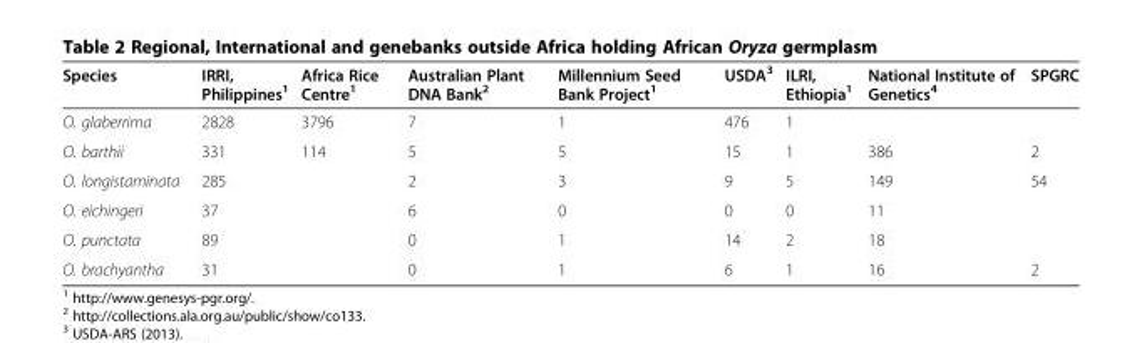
<table><thead><tr><td>Species</td><td>IRRI, Philippines<sup>1</sup></td><td>Africa Rice Centre<sup>1</sup></td><td>Australian Plant DNA Bank<sup>2</sup></td><td>Millennium Seed Bank Project<sup>1</sup></td><td>USDA<sup>3</sup></td><td>ILRI, Ethiopia<sup>1</sup></td><td>National Institute of Genetics<sup>4</sup></td><td>SPGRC</td></tr></thead><tbody><tr><td>O. glaberrima</td><td>2828</td><td>3796</td><td>7</td><td>1</td><td>476</td><td>1</td><td></td><td></td></tr><tr><td>O. barthii</td><td>331</td><td rowspan="5">114</td><td>5</td><td>5</td><td>15</td><td>1</td><td>386</td><td>2</td></tr><tr><td>O. longistaminata</td><td>285</td><td>2</td><td>3</td><td>9</td><td>5</td><td>149</td><td>54</td></tr><tr><td>O. eichingeri</td><td>37</td><td>6</td><td>0</td><td>0</td><td>0</td><td>11</td><td></td></tr><tr><td>O. punctata</td><td>89</td><td>0</td><td>1</td><td>14</td><td>2</td><td>18</td><td></td></tr><tr><td>O. brachyantha</td><td>31</td><td>0</td><td>1</td><td>6</td><td>1</td><td>16</td><td>2</td></tr></tbody></table>